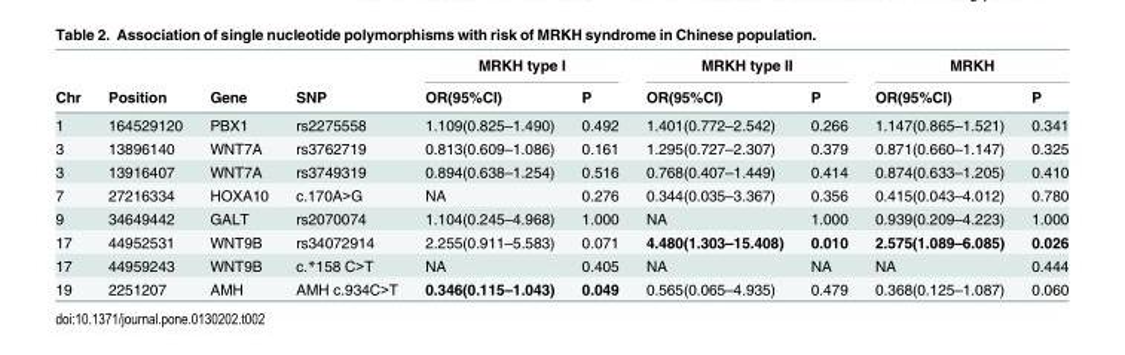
<table><thead><tr><td rowspan="2">Chr</td><td rowspan="2">Position</td><td rowspan="2">Gene</td><td rowspan="2">SNP</td><td colspan="2">MRKH type I</td><td colspan="2">MRKH type II</td><td colspan="2">MRKH</td></tr><tr><td>OR(95%CI)</td><td>P</td><td>OR(95%CI)</td><td>P</td><td>OR(95%CI)</td><td>P</td></tr></thead><tbody><tr><td>1</td><td>164529120</td><td>PBX1</td><td>rs2275558</td><td>1.109(0.825–1.490)</td><td>0.492</td><td>1.401(0.772–2.542)</td><td>0.266</td><td>1.147(0.865–1.521)</td><td>0.341</td></tr><tr><td>3</td><td>13896140</td><td>WNT7A</td><td>rs3762719</td><td>0.813(0.609–1.086)</td><td>0.161</td><td>1.295(0.727–2.307)</td><td>0.379</td><td>0.871(0.660–1.147)</td><td>0.325</td></tr><tr><td>3</td><td>13916407</td><td>WNT7A</td><td>rs3749319</td><td>0.894(0.638–1.254)</td><td>0.516</td><td>0.768(0.407–1.449)</td><td>0.414</td><td>0.874(0.633–1.205)</td><td>0.410</td></tr><tr><td>7</td><td>27216334</td><td>HOXA10</td><td>c.170A&gt;G</td><td>NA</td><td>0.276</td><td>0.344(0.035–3.367)</td><td>0.356</td><td>0.415(0.043–4.012)</td><td>0.780</td></tr><tr><td>9</td><td>34649442</td><td>GALT</td><td>rs2070074</td><td>1.104(0.245–4.968)</td><td>1.000</td><td>NA</td><td>1.000</td><td>0.939(0.209–4.223)</td><td>1.000</td></tr><tr><td>17</td><td>44952531</td><td>WNT9B</td><td>rs34072914</td><td>2.255(0.911–5.583)</td><td>0.071</td><td>4.480(1.303–15.408)</td><td>0.010</td><td>2.575(1.089–6.085)</td><td>0.026</td></tr><tr><td>17</td><td>44959243</td><td>WNT9B</td><td>c.*158 C&gt;T</td><td>NA</td><td>0.405</td><td>NA</td><td>NA</td><td>NA</td><td>0.444</td></tr><tr><td>19</td><td>2251207</td><td>AMH</td><td>AMH c.934C&gt;T</td><td>0.346(0.115–1.043)</td><td>0.049</td><td>0.565(0.065–4.935)</td><td>0.479</td><td>0.368(0.125–1.087)</td><td>0.060</td></tr></tbody></table>